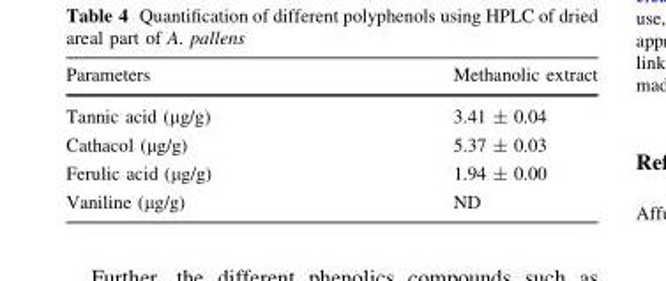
<table><thead><tr><td>Parameters</td><td>Methanolic extract</td></tr></thead><tbody><tr><td>Tannic acid (μg/g)</td><td>3.41 ± 0.04</td></tr><tr><td>Cathacol (μg/g)</td><td>5.37 ± 0.03</td></tr><tr><td>Ferulic acid (μg/g)</td><td>1.94 ± 0.00</td></tr><tr><td>Vaniline (μg/g)</td><td>ND</td></tr></tbody></table>